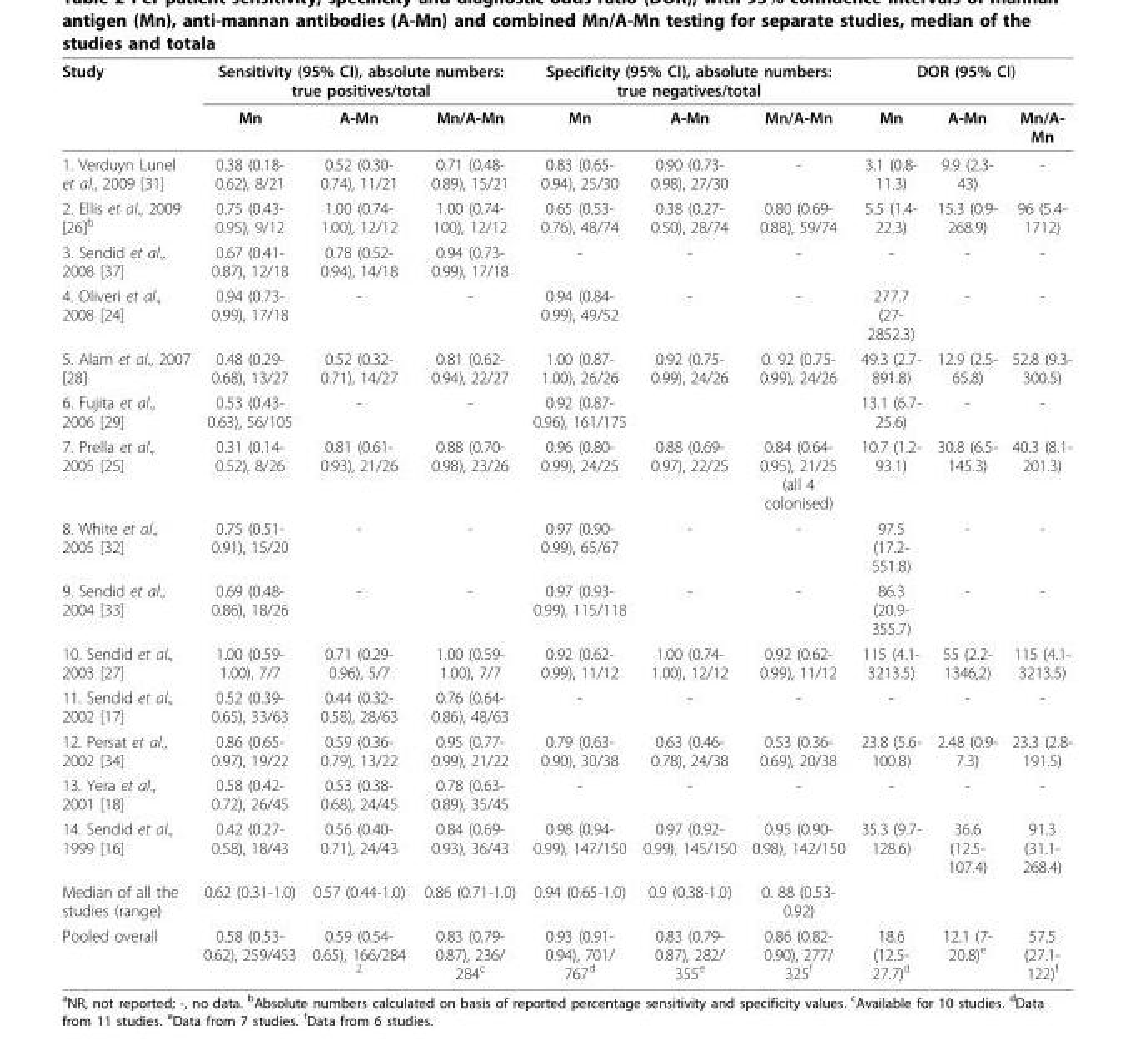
<table><thead><tr><td rowspan="2">Study</td><td colspan="3">Sensitivity (95% CI), absolute numbers: true positives/total</td><td colspan="3">Specificity (95% CI), absolute numbers: true negatives/total</td><td colspan="3">DOR (95% CI)</td></tr><tr><td>Mn</td><td>A-Mn</td><td>Mn/A-Mn</td><td>Mn</td><td>A-Mn</td><td>Mn/A-Mn</td><td>Mn</td><td>A-Mn</td><td>Mn/A- Mn</td></tr></thead><tbody><tr><td>1. Verduyn Lunel et al., 2009 [31]</td><td>0.38 (0.18- 0.62), 8/21</td><td>0.52 (0.30- 0.74), 11/21</td><td>0.71 (0.48- 0.89), 15/21</td><td>0.83 (0.65- 0.94), 25/30</td><td>0.90 (0.73- 0.98), 27/30</td><td>-</td><td>3.1 (0.8- 11.3)</td><td>9.9 (2.3- 43)</td><td>-</td></tr><tr><td>2. Ellis et al., 2009 [26]<sup>b</sup></td><td>0.75 (0.43- 0.95), 9/12</td><td>1.00 (0.74- 1.00), 12/12</td><td>1.00 (0.74- 100), 12/12</td><td>0.65 (0.53- 0.76), 48/74</td><td>0.38 (0.27- 0.50), 28/74</td><td>0.80 (0.69- 0.88), 59/74</td><td>5.5 (1.4- 22.3)</td><td>15.3 (0.9- 268.9)</td><td>96 (5.4- 1712)</td></tr><tr><td>3. Sendid et al., 2008 [37]</td><td>0.67 (0.41- 0.87), 12/18</td><td>0.78 (0.52- 0.94), 14/18</td><td>0.94 (0.73- 0.99), 17/18</td><td>-</td><td>-</td><td>-</td><td>-</td><td>-</td><td>-</td></tr><tr><td>4. Oliveri et al., 2008 [24]</td><td>0.94 (0.73- 0.99), 17/18</td><td>-</td><td>-</td><td>0.94 (0.84- 0.99), 49/52</td><td>-</td><td>-</td><td>277.7 (27- 2852.3)</td><td>-</td><td>-</td></tr><tr><td>5. Alam et al., 2007 [28]</td><td>0.48 (0.29- 0.68), 13/27</td><td>0.52 (0.32- 0.71), 14/27</td><td>0.81 (0.62- 0.94), 22/27</td><td>1.00 (0.87- 1.00), 26/26</td><td>0.92 (0.75- 0.99), 24/26</td><td>0. 92 (0.75- 0.99), 24/26</td><td>49.3 (2.7- 891.8)</td><td>12.9 (2.5- 65.8)</td><td>52.8 (9.3- 300.5)</td></tr><tr><td>6. Fujita et al., 2006 [29]</td><td>0.53 (0.43- 0.63), 56/105</td><td>-</td><td>-</td><td>0.92 (0.87- 0.96), 161/175</td><td></td><td></td><td>13.1 (6.7- 25.6)</td><td>-</td><td>-</td></tr><tr><td>7. Prella et al., 2005 [25]</td><td>0.31 (0.14- 0.52), 8/26</td><td>0.81 (0.61- 0.93), 21/26</td><td>0.88 (0.70- 0.98), 23/26</td><td>0.96 (0.80- 0.99), 24/25</td><td>0.88 (0.69- 0.97), 22/25</td><td>0.84 (0.64- 0.95), 21/25 (all 4 colonised)</td><td>10.7 (1.2- 93.1)</td><td>30.8 (6.5- 145.3)</td><td>40.3 (8.1- 201.3)</td></tr><tr><td>8. White et al., 2005 [32]</td><td>0.75 (0.51- 0.91), 15/20</td><td>-</td><td>-</td><td>0.97 (0.90- 0.99), 65/67</td><td>-</td><td>-</td><td>97.5 (17.2- 551.8)</td><td>-</td><td>-</td></tr><tr><td>9. Sendid et al., 2004 [33]</td><td>0.69 (0.48- 0.86), 18/26</td><td>-</td><td>-</td><td>0.97 (0.93- 0.99), 115/118</td><td>-</td><td>-</td><td>86.3 (20.9- 355.7)</td><td>-</td><td>-</td></tr><tr><td>10. Sendid et al., 2003 [27]</td><td>1.00 (0.59- 1.00), 7/7</td><td>0.71 (0.29- 0.96), 5/7</td><td>1.00 (0.59- 1.00), 7/7</td><td>0.92 (0.62- 0.99), 11/12</td><td>1.00 (0.74- 1.00), 12/12</td><td>0.92 (0.62- 0.99), 11/12</td><td>115 (4.1- 3213.5)</td><td>55 (2.2- 1346,2)</td><td>115 (4.1- 3213.5)</td></tr><tr><td>11. Sendid et al., 2002 [17]</td><td>0.52 (0.39- 0.65), 33/63</td><td>0.44 (0.32- 0.58), 28/63</td><td>0.76 (0.64- 0.86), 48/63</td><td>-</td><td>-</td><td>-</td><td>-</td><td>-</td><td>-</td></tr><tr><td>12. Persat et al., 2002 [34]</td><td>0.86 (0.65- 0.97), 19/22</td><td>0.59 (0.36- 0.79), 13/22</td><td>0.95 (0.77- 0.99), 21/22</td><td>0.79 (0.63- 0.90), 30/38</td><td>0.63 (0.46- 0.78), 24/38</td><td>0.53 (0.36- 0.69), 20/38</td><td>23.8 (5.6- 100.8)</td><td>2.48 (0.9- 7.3)</td><td>23.3 (2.8- 191.5)</td></tr><tr><td>13. Yera et al., 2001 [18]</td><td>0.58 (0.42- 0.72), 26/45</td><td>0.53 (0.38- 0.68), 24/45</td><td>0.78 (0.63- 0.89), 35/45</td><td>-</td><td>-</td><td>-</td><td>-</td><td>-</td><td>-</td></tr><tr><td>14. Sendid et al., 1999 [16]</td><td>0.42 (0.27- 0.58), 18/43</td><td>0.56 (0.40- 0.71), 24/43</td><td>0.84 (0.69- 0.93), 36/43</td><td>0.98 (0.94- 0.99), 147/150</td><td>0.97 (0.92- 0.99), 145/150</td><td>0.95 (0.90- 0.98), 142/150</td><td>35.3 (9.7- 128.6)</td><td>36.6 (12.5- 107.4)</td><td>91.3 (31.1- 268.4)</td></tr><tr><td>Median of all the studies (range)</td><td>0.62 (0.31-1.0)</td><td>0.57 (0.44-1.0)</td><td>0.86 (0.71-1.0)</td><td>0.94 (0.65-1.0)</td><td>0.9 (0.38-1.0)</td><td>0. 88 (0.53- 0.92)</td><td></td><td></td><td></td></tr><tr><td>Pooled overall</td><td>0.58 (0.53- 0.62), 259/453</td><td>0.59 (0.54- 0.65), 166/284 <sup>2</sup></td><td>0.83 (0.79- 0.87), 236/ 284<sup>c</sup></td><td>0.93 (0.91- 0.94), 701/ 767<sup>d</sup></td><td>0.83 (0.79- 0.87), 282/ 355<sup>e</sup></td><td>0.86 (0.82- 0.90), 277/ 325<sup>f</sup></td><td>18.6 (12.5- 27.7)<sup>d</sup></td><td>12.1 (7- 20.8)<sup>e</sup></td><td>57.5 (27.1- 122)<sup>f</sup></td></tr></tbody></table>